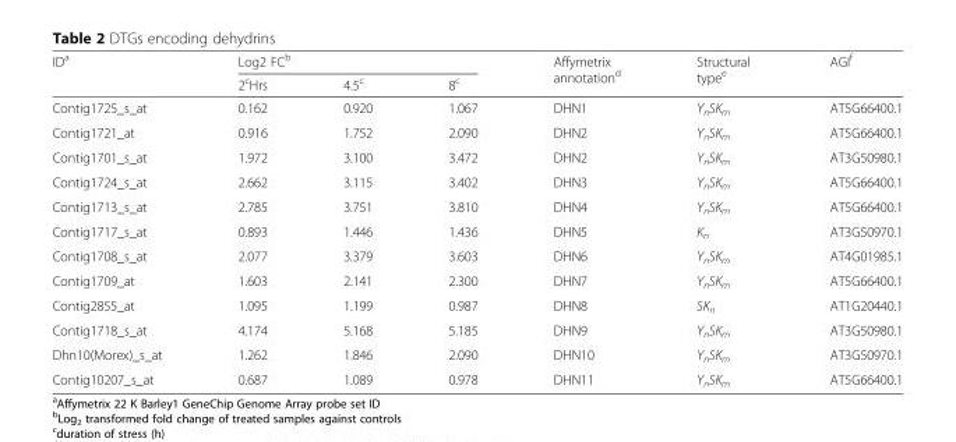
<table><thead><tr><td rowspan="2">ID<sup>a</sup></td><td colspan="3">Log2 FC<sup>b</sup></td><td rowspan="2">Affymetrix annotation<sup>d</sup></td><td rowspan="2">Structural type<sup>e</sup></td><td rowspan="2">AGI<sup>f</sup></td></tr><tr><td>2<sup>c</sup>Hrs</td><td>4.5<sup>c</sup></td><td>8<sup>c</sup></td></tr></thead><tbody><tr><td>Contig1725_s_at</td><td>0.162</td><td>0.920</td><td>1.067</td><td>DHN1</td><td>Y<sub>n</sub>SK<sub>m</sub></td><td>AT5G66400.1</td></tr><tr><td>Contig1721_at</td><td>0.916</td><td>1.752</td><td>2.090</td><td>DHN2</td><td>Y<sub>n</sub>SK<sub>m</sub></td><td>AT5G66400.1</td></tr><tr><td>Contig1701_s_at</td><td>1.972</td><td>3.100</td><td>3.472</td><td>DHN2</td><td>Y<sub>n</sub>SK<sub>m</sub></td><td>AT3G50980.1</td></tr><tr><td>Contig1724_s_at</td><td>2.662</td><td>3.115</td><td>3.402</td><td>DHN3</td><td>Y<sub>n</sub>SK<sub>m</sub></td><td>AT5G66400.1</td></tr><tr><td>Contig1713_s_at</td><td>2.785</td><td>3.751</td><td>3.810</td><td>DHN4</td><td>Y<sub>n</sub>SK<sub>m</sub></td><td>AT5G66400.1</td></tr><tr><td>Contig1717_s_at</td><td>0.893</td><td>1.446</td><td>1.436</td><td>DHN5</td><td>K<sub>n</sub></td><td>AT3G50970.1</td></tr><tr><td>Contig1708_s_at</td><td>2.077</td><td>3.379</td><td>3.603</td><td>DHN6</td><td>Y<sub>n</sub>SK<sub>m</sub></td><td>AT4G01985.1</td></tr><tr><td>Contig1709_at</td><td>1.603</td><td>2.141</td><td>2.300</td><td>DHN7</td><td>Y<sub>n</sub>SK<sub>m</sub></td><td>AT5G66400.1</td></tr><tr><td>Contig2855_at</td><td>1.095</td><td>1.199</td><td>0.987</td><td>DHN8</td><td>SK<sub>n</sub></td><td>AT1G20440.1</td></tr><tr><td>Contig1718_s_at</td><td>4.174</td><td>5.168</td><td>5.185</td><td>DHN9</td><td>Y<sub>n</sub>SK<sub>m</sub></td><td>AT3G50980.1</td></tr><tr><td>Dhn10(Morex)_s_at</td><td>1.262</td><td>1.846</td><td>2.090</td><td>DHN10</td><td>Y<sub>n</sub>SK<sub>m</sub></td><td>AT3G50970.1</td></tr><tr><td>Contig10207_s_at</td><td>0.687</td><td>1.089</td><td>0.978</td><td>DHN11</td><td>Y<sub>n</sub>SK<sub>m</sub></td><td>AT5G66400.1</td></tr></tbody></table>